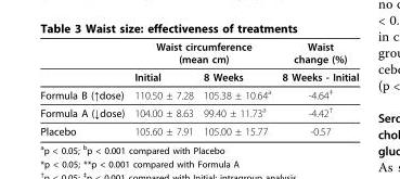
<table><thead><tr><td rowspan="2"></td><td colspan="2">Waist circumference (mean cm)</td><td rowspan="2">Waist change (%) 8 Weeks - Initial</td></tr><tr><td>Initial</td><td>8 Weeks</td></tr></thead><tbody><tr><td>Formula B (↑dose)</td><td>110.50 ± 7.28</td><td>105.38 ± 10.64<sup>a</sup></td><td>-4.64<sup>‡</sup></td></tr><tr><td>Formula A (↓dose)</td><td>104.00 ± 8.63</td><td>99.40 ± 11.73<sup>a</sup></td><td>-4.42<sup>†</sup></td></tr><tr><td>Placebo</td><td>105.60 ± 7.91</td><td>105.00 ± 15.77</td><td>-0.57</td></tr></tbody></table>